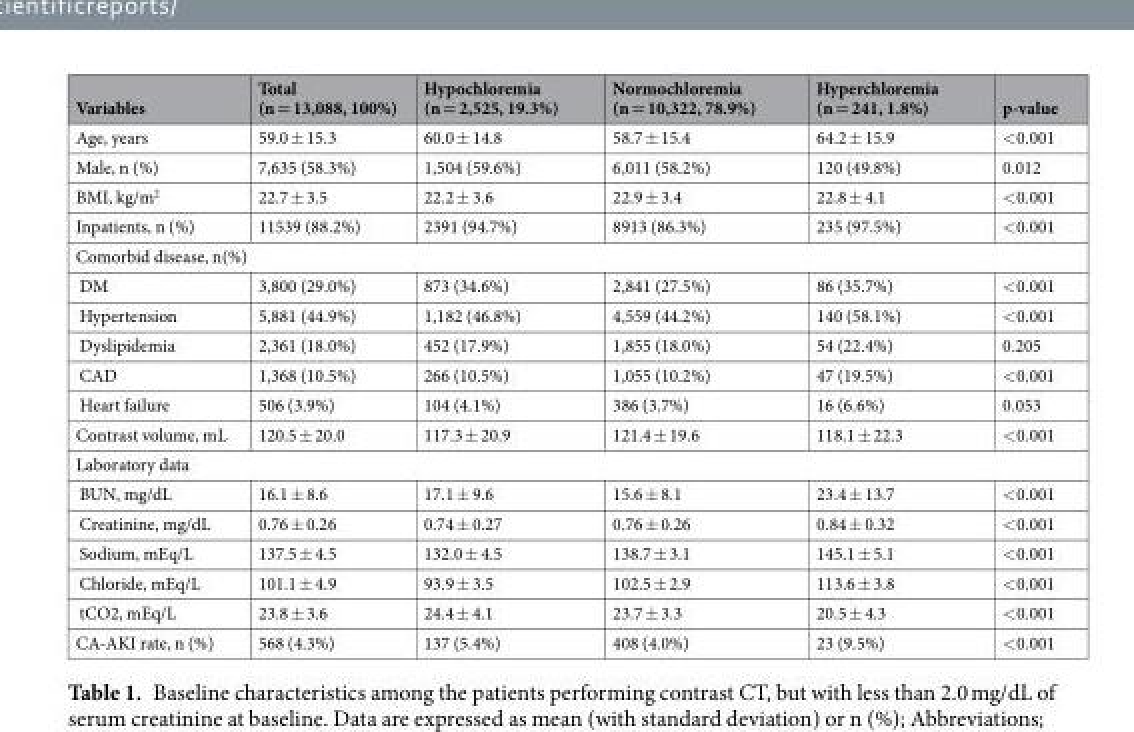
<table><thead><tr><td>Variables</td><td>Total (n = 13,088, 100%)</td><td>Hypochloremia (n = 2,525, 19.3%)</td><td>Normochloremia (n = 10,322, 78.9%)</td><td>Hyperchloremia (n = 241, 1.8%)</td><td>p-value</td></tr></thead><tbody><tr><td>Age, years</td><td>59.0 ± 15.3</td><td>60.0 ± 14.8</td><td>58.7 ± 15.4</td><td>64.2 ± 15.9</td><td>&lt;0.001</td></tr><tr><td>Male, n (%)</td><td>7,635 (58.3%)</td><td>1,504 (59.6%)</td><td>6,011 (58.2%)</td><td>120 (49.8%)</td><td>0.012</td></tr><tr><td>BMI, kg/m<sup>2</sup></td><td>22.7 ± 3.5</td><td>22.2 ± 3.6</td><td>22.9 ± 3.4</td><td>22.8 ± 4.1</td><td>&lt;0.001</td></tr><tr><td>Inpatients, n (%)</td><td>11539 (88.2%)</td><td>2391 (94.7%)</td><td>8913 (86.3%)</td><td>235 (97.5%)</td><td>&lt;0.001</td></tr><tr><td colspan="6">Comorbid disease, n(%)</td></tr><tr><td>DM</td><td>3,800 (29.0%)</td><td>873 (34.6%)</td><td>2,841 (27.5%)</td><td>86 (35.7%)</td><td>&lt;0.001</td></tr><tr><td>Hypertension</td><td>5,881 (44.9%)</td><td>1,182 (46.8%)</td><td>4,559 (44.2%)</td><td>140 (58.1%)</td><td>&lt;0.001</td></tr><tr><td>Dyslipidemia</td><td>2,361 (18.0%)</td><td>452 (17.9%)</td><td>1,855 (18.0%)</td><td>54 (22.4%)</td><td>0.205</td></tr><tr><td>CAD</td><td>1,368 (10.5%)</td><td>266 (10.5%)</td><td>1,055 (10.2%)</td><td>47 (19.5%)</td><td>&lt;0.001</td></tr><tr><td>Heart failure</td><td>506 (3.9%)</td><td>104 (4.1%)</td><td>386 (3.7%)</td><td>16 (6.6%)</td><td>0.053</td></tr><tr><td>Contrast volume, mL</td><td>120.5 ± 20.0</td><td>117.3 ± 20.9</td><td>121.4 ± 19.6</td><td>118.1 ± 22.3</td><td>&lt;0.001</td></tr><tr><td colspan="6">Laboratory data</td></tr><tr><td>BUN, mg/dL</td><td>16.1 ± 8.6</td><td>17.1 ± 9.6</td><td>15.6 ± 8.1</td><td>23.4 ± 13.7</td><td>&lt;0.001</td></tr><tr><td>Creatinine, mg/dL</td><td>0.76 ± 0.26</td><td>0.74 ± 0.27</td><td>0.76 ± 0.26</td><td>0.84 ± 0.32</td><td>&lt;0.001</td></tr><tr><td>Sodium, mEq/L</td><td>137.5 ± 4.5</td><td>132.0 ± 4.5</td><td>138.7 ± 3.1</td><td>145.1 ± 5.1</td><td>&lt;0.001</td></tr><tr><td>Chloride, mEq/L</td><td>101.1 ± 4.9</td><td>93.9 ± 3.5</td><td>102.5 ± 2.9</td><td>113.6 ± 3.8</td><td>&lt;0.001</td></tr><tr><td>tCO2, mEq/L</td><td>23.8 ± 3.6</td><td>24.4 ± 4.1</td><td>23.7 ± 3.3</td><td>20.5 ± 4.3</td><td>&lt;0.001</td></tr><tr><td>CA-AKI rate, n (%)</td><td>568 (4.3%)</td><td>137 (5.4%)</td><td>408 (4.0%)</td><td>23 (9.5%)</td><td>&lt;0.001</td></tr></tbody></table>